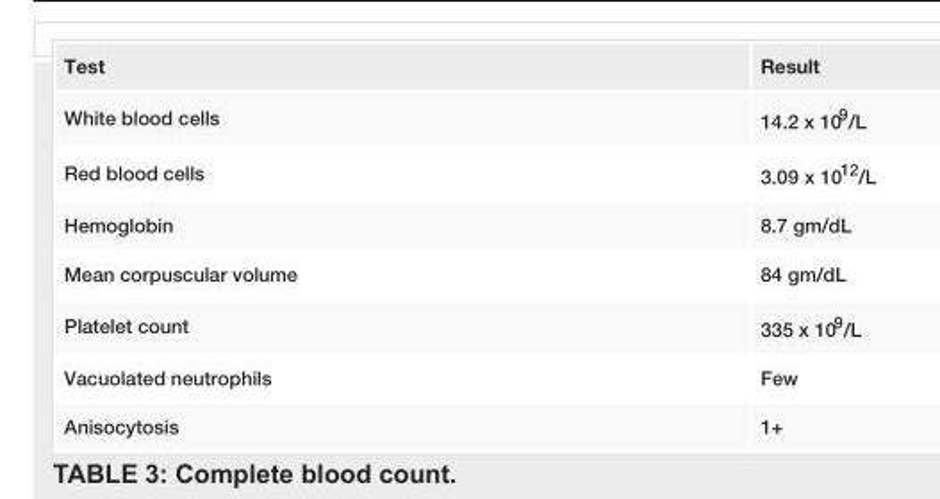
<table><tbody><tr><td>Test</td><td>Result</td></tr><tr><td>White blood cells</td><td>14.2 x 10<sup>9</sup>/L</td></tr><tr><td>Red blood cells</td><td>3.09 x 10<sup>12</sup>/L</td></tr><tr><td>Hemoglobin</td><td>8.7 gm/dL</td></tr><tr><td>Mean corpuscular volume</td><td>84 gm/dL</td></tr><tr><td>Platelet count</td><td>335 x 10<sup>9</sup>/L</td></tr><tr><td>Vacuolated neutrophils</td><td>Few</td></tr><tr><td>Anisocytosis</td><td>1+</td></tr></tbody></table>